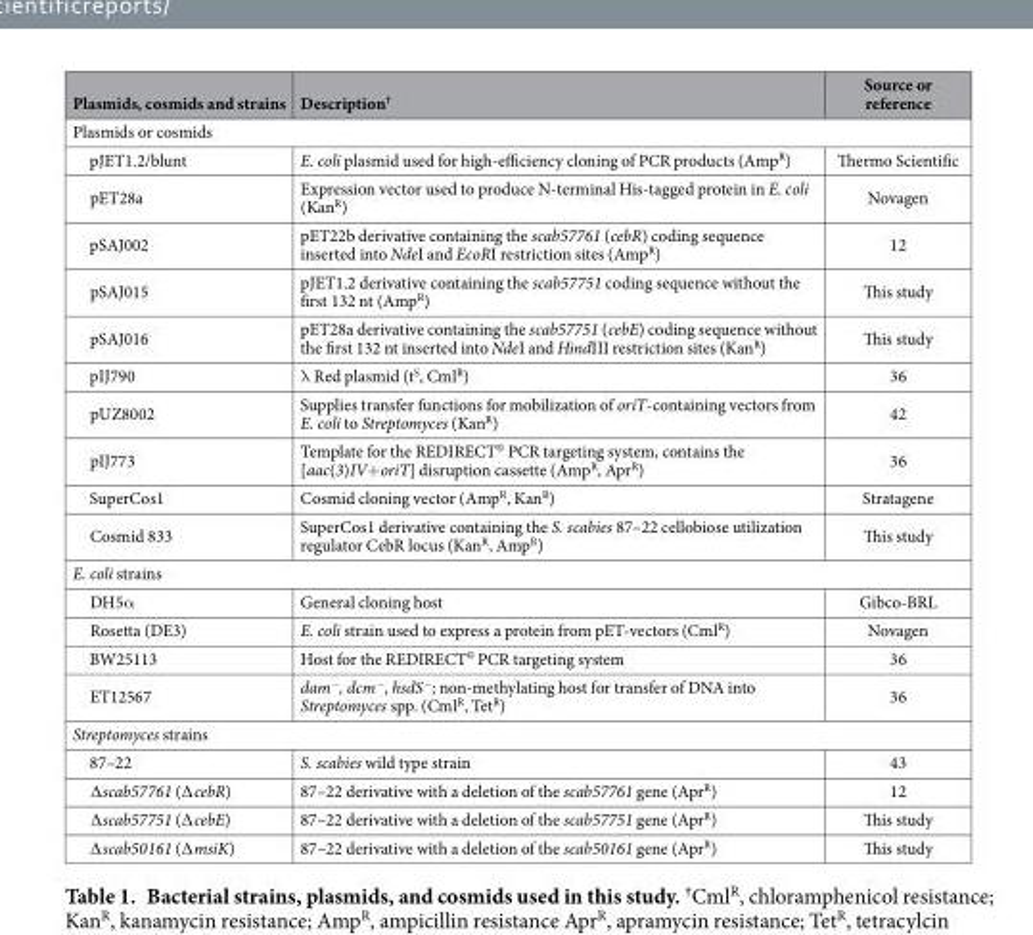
<table><thead><tr><td>Plasmids, cosmids and strains</td><td>Description<sup>†</sup></td><td>Source or reference</td></tr></thead><tbody><tr><td colspan="3">Plasmids or cosmids</td></tr><tr><td>pJET1.2/blunt</td><td>E. coli plasmid used for high-efficiency cloning of PCR products (Amp<sup>R</sup>)</td><td>Thermo Scientific</td></tr><tr><td>pET28a</td><td>Expression vector used to produce N-terminal His-tagged protein in E. coli (Kan<sup>R</sup>)</td><td>Novagen</td></tr><tr><td>pSAJ002</td><td>pET22b derivative containing the scab57761 (cebR) coding sequence inserted into NdeI and EcoRI restriction sites (Amp<sup>R</sup>)</td><td>12</td></tr><tr><td>pSAJ015</td><td>pJET1.2 derivative containing the scab57751 coding sequence without the first 132 nt (Amp<sup>R</sup>)</td><td>This study</td></tr><tr><td>pSAJ016</td><td>pET28a derivative containing the scab57751 (cebE) coding sequence without the first 132 nt inserted into NdeI and HindIII restriction sites (Kan<sup>R</sup>)</td><td>This study</td></tr><tr><td>pIJ790</td><td>λ Red plasmid (t<sup>S</sup>, Cml<sup>R</sup>)</td><td>36</td></tr><tr><td>pUZ8002</td><td>Supplies transfer functions for mobilization of oriT-containing vectors from E. coli to Streptomyces (Kan<sup>R</sup>)</td><td>42</td></tr><tr><td>pIJ773</td><td>Template for the REDIRECT<sup>©</sup> PCR targeting system, contains the [aac(3)IV+oriT] disruption cassette (Amp<sup>R</sup>, Apr<sup>R</sup>)</td><td>36</td></tr><tr><td>SuperCos1</td><td>Cosmid cloning vector (Amp<sup>R</sup>, Kan<sup>R</sup>)</td><td>Stratagene</td></tr><tr><td>Cosmid 833</td><td>SuperCos1 derivative containing the S. scabies 87–22 cellobiose utilization regulator CebR locus (Kan<sup>R</sup>, Amp<sup>R</sup>)</td><td>This study</td></tr><tr><td colspan="3">E. coli strains</td></tr><tr><td>DH5α</td><td>General cloning host</td><td>Gibco-BRL</td></tr><tr><td>Rosetta (DE3)</td><td>E. coli strain used to express a protein from pET-vectors (Cml<sup>R</sup>)</td><td>Novagen</td></tr><tr><td>BW25113</td><td>Host for the REDIRECT<sup>©</sup> PCR targeting system</td><td>36</td></tr><tr><td>ET12567</td><td>dam<sup>−</sup>, dcm<sup>−</sup>, hsdS<sup>−</sup>; non-methylating host for transfer of DNA into Streptomyces spp. (Cml<sup>R</sup>, Tet<sup>R</sup>)</td><td>36</td></tr><tr><td colspan="3">Streptomyces strains</td></tr><tr><td>87–22</td><td>S. scabies wild type strain</td><td>43</td></tr><tr><td>∆scab57761 (∆cebR)</td><td>87–22 derivative with a deletion of the scab57761 gene (Apr<sup>R</sup>)</td><td>12</td></tr><tr><td>∆scab57751 (∆cebE)</td><td>87–22 derivative with a deletion of the scab57751 gene (Apr<sup>R</sup>)</td><td>This study</td></tr><tr><td>∆scab50161 (∆msiK)</td><td>87–22 derivative with a deletion of the scab50161 gene (Apr<sup>R</sup>)</td><td>This study</td></tr></tbody></table>